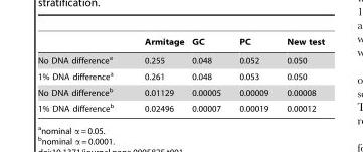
<table><thead><tr><td></td><td>Armitage</td><td>GC</td><td>PC</td><td>New test</td></tr></thead><tbody><tr><td>No DNA difference<sup>a</sup></td><td>0.255</td><td>0.048</td><td>0.052</td><td>0.050</td></tr><tr><td>1% DNA difference<sup>a</sup></td><td>0.261</td><td>0.048</td><td>0.053</td><td>0.050</td></tr><tr><td>No DNA difference<sup>b</sup></td><td>0.01129</td><td>0.00005</td><td>0.00009</td><td>0.00008</td></tr><tr><td>1% DNA difference<sup>b</sup></td><td>0.02496</td><td>0.00007</td><td>0.00019</td><td>0.00012</td></tr></tbody></table>